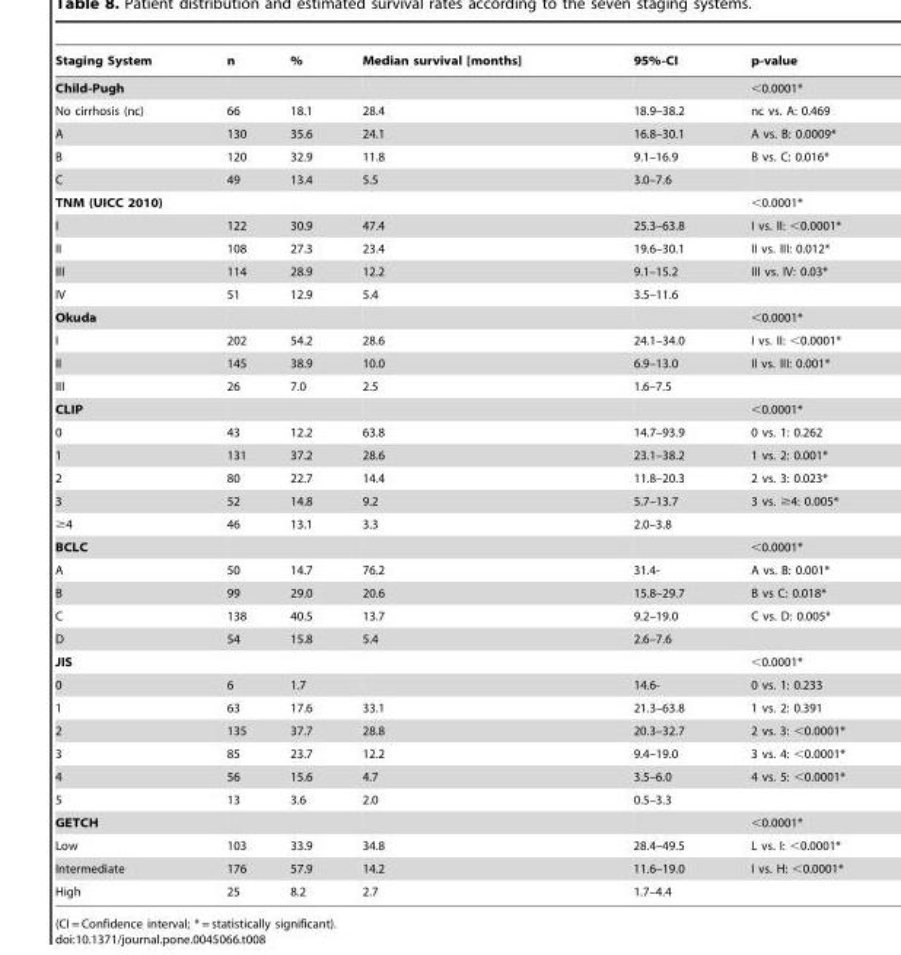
<table><thead><tr><td>Staging System</td><td>n</td><td>%</td><td>Median survival [months]</td><td>95%-CI</td><td>p-value</td></tr></thead><tbody><tr><td>Child-Pugh</td><td></td><td></td><td></td><td></td><td>&lt;0.0001*</td></tr><tr><td>No cirrhosis (nc)</td><td>66</td><td>18.1</td><td>28.4</td><td>18.9–38.2</td><td>nc vs. A: 0.469</td></tr><tr><td>A</td><td>130</td><td>35.6</td><td>24.1</td><td>16.8–30.1</td><td>A vs. B: 0.0009*</td></tr><tr><td>B</td><td>120</td><td>32.9</td><td>11.8</td><td>9.1–16.9</td><td>B vs. C: 0.016*</td></tr><tr><td>C</td><td>49</td><td>13.4</td><td>5.5</td><td>3.0–7.6</td><td></td></tr><tr><td>TNM (UICC 2010)</td><td></td><td></td><td></td><td></td><td>&lt;0.0001*</td></tr><tr><td>I</td><td>122</td><td>30.9</td><td>47.4</td><td>25.3–63.8</td><td>I vs. II: &lt;0.0001*</td></tr><tr><td>II</td><td>108</td><td>27.3</td><td>23.4</td><td>19.6–30.1</td><td>II vs. III: 0.012*</td></tr><tr><td>III</td><td>114</td><td>28.9</td><td>12.2</td><td>9.1–15.2</td><td>III vs. IV: 0.03*</td></tr><tr><td>IV</td><td>51</td><td>12.9</td><td>5.4</td><td>3.5–11.6</td><td></td></tr><tr><td>Okuda</td><td></td><td></td><td></td><td></td><td>&lt;0.0001*</td></tr><tr><td>I</td><td>202</td><td>54.2</td><td>28.6</td><td>24.1–34.0</td><td>I vs. II: &lt;0.0001*</td></tr><tr><td>II</td><td>145</td><td>38.9</td><td>10.0</td><td>6.9–13.0</td><td>II vs. III: 0.001*</td></tr><tr><td>III</td><td>26</td><td>7.0</td><td>2.5</td><td>1.6–7.5</td><td></td></tr><tr><td>CLIP</td><td></td><td></td><td></td><td></td><td>&lt;0.0001*</td></tr><tr><td>0</td><td>43</td><td>12.2</td><td>63.8</td><td>14.7–93.9</td><td>0 vs. 1: 0.262</td></tr><tr><td>1</td><td>131</td><td>37.2</td><td>28.6</td><td>23.1–38.2</td><td>1 vs. 2: 0.001*</td></tr><tr><td>2</td><td>80</td><td>22.7</td><td>14.4</td><td>11.8–20.3</td><td>2 vs. 3: 0.023*</td></tr><tr><td>3</td><td>52</td><td>14.8</td><td>9.2</td><td>5.7–13.7</td><td>3 vs. ≥4: 0.005*</td></tr><tr><td>≥4</td><td>46</td><td>13.1</td><td>3.3</td><td>2.0–3.8</td><td></td></tr><tr><td>BCLC</td><td></td><td></td><td></td><td></td><td>&lt;0.0001*</td></tr><tr><td>A</td><td>50</td><td>14.7</td><td>76.2</td><td>31.4-</td><td>A vs. B: 0.001*</td></tr><tr><td>B</td><td>99</td><td>29.0</td><td>20.6</td><td>15.8–29.7</td><td>B vs C: 0.018*</td></tr><tr><td>C</td><td>138</td><td>40.5</td><td>13.7</td><td>9.2–19.0</td><td>C vs. D: 0.005*</td></tr><tr><td>D</td><td>54</td><td>15.8</td><td>5.4</td><td>2.6–7.6</td><td></td></tr><tr><td>JIS</td><td></td><td></td><td></td><td></td><td>&lt;0.0001*</td></tr><tr><td>0</td><td>6</td><td>1.7</td><td></td><td>14.6-</td><td>0 vs. 1: 0.233</td></tr><tr><td>1</td><td>63</td><td>17.6</td><td>33.1</td><td>21.3–63.8</td><td>1 vs. 2: 0.391</td></tr><tr><td>2</td><td>135</td><td>37.7</td><td>28.8</td><td>20.3–32.7</td><td>2 vs. 3: &lt;0.0001*</td></tr><tr><td>3</td><td>85</td><td>23.7</td><td>12.2</td><td>9.4–19.0</td><td>3 vs. 4: &lt;0.0001*</td></tr><tr><td>4</td><td>56</td><td>15.6</td><td>4.7</td><td>3.5–6.0</td><td>4 vs. 5: &lt;0.0001*</td></tr><tr><td>5</td><td>13</td><td>3.6</td><td>2.0</td><td>0.5–3.3</td><td></td></tr><tr><td>GETCH</td><td></td><td></td><td></td><td></td><td>&lt;0.0001*</td></tr><tr><td>Low</td><td>103</td><td>33.9</td><td>34.8</td><td>28.4–49.5</td><td>L vs. I: &lt;0.0001*</td></tr><tr><td>Intermediate</td><td>176</td><td>57.9</td><td>14.2</td><td>11.6–19.0</td><td>I vs. H: &lt;0.0001*</td></tr><tr><td>High</td><td>25</td><td>8.2</td><td>2.7</td><td>1.7–4.4</td><td></td></tr></tbody></table>